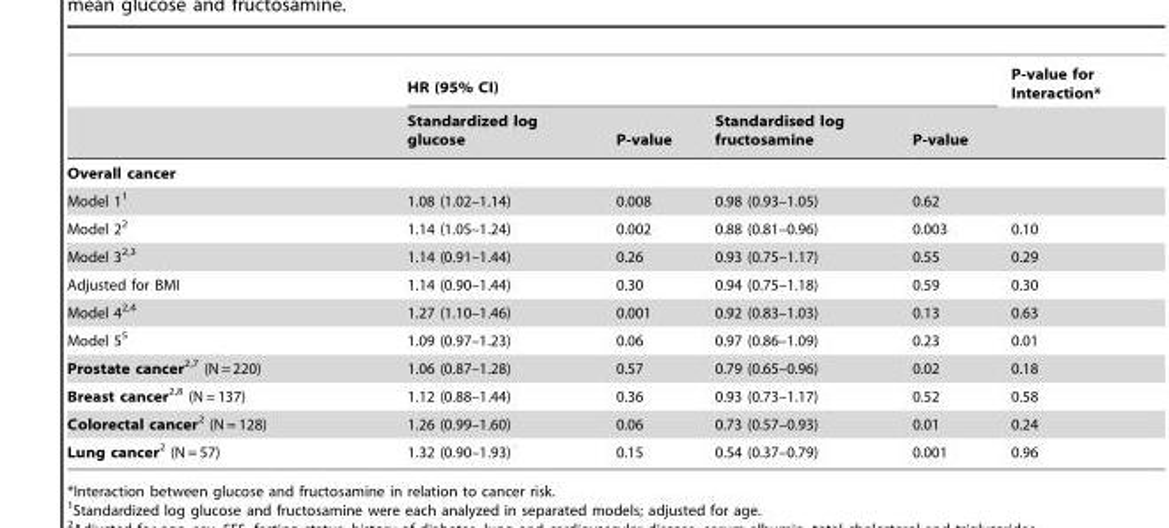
<table><thead><tr><td rowspan="2"></td><td colspan="4">HR (95% CI)</td><td rowspan="2">P-value for Interaction*</td></tr><tr><td>Standardized log glucose</td><td>P-value</td><td>Standardised log fructosamine</td><td>P-value</td></tr></thead><tbody><tr><td colspan="6">Overall cancer</td></tr><tr><td>Model 1<sup>1</sup></td><td>1.08 (1.02–1.14)</td><td>0.008</td><td>0.98 (0.93–1.05)</td><td>0.62</td><td></td></tr><tr><td>Model 2<sup>2</sup></td><td>1.14 (1.05–1.24)</td><td>0.002</td><td>0.88 (0.81–0.96)</td><td>0.003</td><td>0.10</td></tr><tr><td>Model 3<sup>2,3</sup></td><td>1.14 (0.91–1.44)</td><td>0.26</td><td>0.93 (0.75–1.17)</td><td>0.55</td><td>0.29</td></tr><tr><td>Adjusted for BMI</td><td>1.14 (0.90–1.44)</td><td>0.30</td><td>0.94 (0.75–1.18)</td><td>0.59</td><td>0.30</td></tr><tr><td>Model 4<sup>2,4</sup></td><td>1.27 (1.10–1.46)</td><td>0.001</td><td>0.92 (0.83–1.03)</td><td>0.13</td><td>0.63</td></tr><tr><td>Model 5<sup>5</sup></td><td>1.09 (0.97–1.23)</td><td>0.06</td><td>0.97 (0.86–1.09)</td><td>0.23</td><td>0.01</td></tr><tr><td>Prostate cancer2,7 (N = 220)</td><td>1.06 (0.87–1.28)</td><td>0.57</td><td>0.79 (0.65–0.96)</td><td>0.02</td><td>0.18</td></tr><tr><td>Breast cancer2,8 (N = 137)</td><td>1.12 (0.88–1.44)</td><td>0.36</td><td>0.93 (0.73–1.17)</td><td>0.52</td><td>0.58</td></tr><tr><td>Colorectal cancer2 (N = 128)</td><td>1.26 (0.99–1.60)</td><td>0.06</td><td>0.73 (0.57–0.93)</td><td>0.01</td><td>0.24</td></tr><tr><td>Lung cancer2 (N = 57)</td><td>1.32 (0.90–1.93)</td><td>0.15</td><td>0.54 (0.37–0.79)</td><td>0.001</td><td>0.96</td></tr></tbody></table>